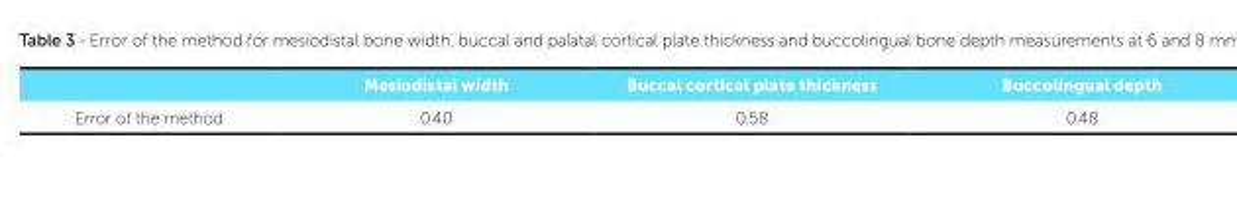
<table><thead><tr><td></td><td>Mesiodistal width</td><td>Buccal cortical plate thickness</td><td>Buccolingual depth</td></tr></thead><tbody><tr><td>Error of the method</td><td>0.40</td><td>0.58</td><td>0.48</td></tr></tbody></table>